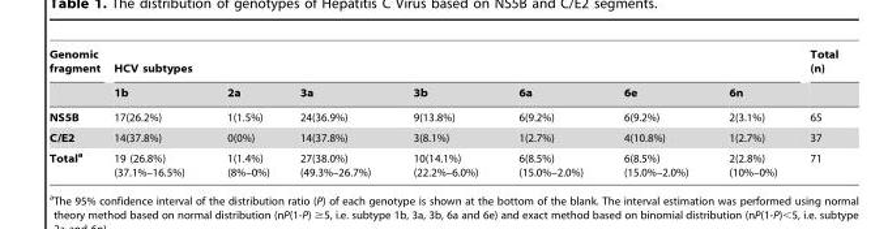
<table><thead><tr><td rowspan="2">Genomic fragment</td><td colspan="7">HCV subtypes</td><td rowspan="2">Total (n)</td></tr><tr><td>1b</td><td>2a</td><td>3a</td><td>3b</td><td>6a</td><td>6e</td><td>6n</td></tr></thead><tbody><tr><td>NS5B</td><td>17(26.2%)</td><td>1(1.5%)</td><td>24(36.9%)</td><td>9(13.8%)</td><td>6(9.2%)</td><td>6(9.2%)</td><td>2(3.1%)</td><td>65</td></tr><tr><td>C/E2</td><td>14(37.8%)</td><td>0(0%)</td><td>14(37.8%)</td><td>3(8.1%)</td><td>1(2.7%)</td><td>4(10.8%)</td><td>1(2.7%)</td><td>37</td></tr><tr><td>Totala</td><td>19 (26.8%) (37.1%–16.5%)</td><td>1(1.4%) (8%–0%)</td><td>27(38.0%) (49.3%–26.7%)</td><td>10(14.1%) (22.2%–6.0%)</td><td>6(8.5%) (15.0%–2.0%)</td><td>6(8.5%) (15.0%–2.0%)</td><td>2(2.8%) (10%–0%)</td><td>71</td></tr></tbody></table>